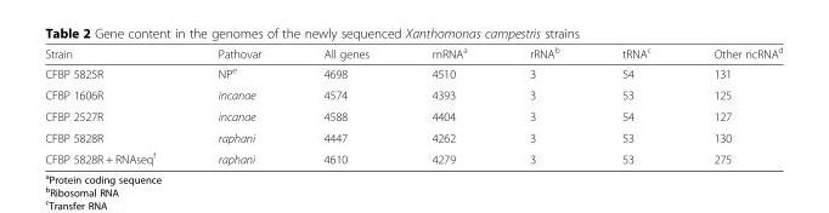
<table><thead><tr><td>Strain</td><td>Pathovar</td><td>All genes</td><td>mRNA<sup>a</sup></td><td>rRNA<sup>b</sup></td><td>tRNA<sup>c</sup></td><td>Other ncRNA<sup>d</sup></td></tr></thead><tbody><tr><td>CFBP 5825R</td><td>NP<sup>e</sup></td><td>4698</td><td>4510</td><td>3</td><td>54</td><td>131</td></tr><tr><td>CFBP 1606R</td><td>incanae</td><td>4574</td><td>4393</td><td>3</td><td>53</td><td>125</td></tr><tr><td>CFBP 2527R</td><td>incanae</td><td>4588</td><td>4404</td><td>3</td><td>54</td><td>127</td></tr><tr><td>CFBP 5828R</td><td>raphani</td><td>4447</td><td>4262</td><td>3</td><td>53</td><td>130</td></tr><tr><td>CFBP 5828R + RNAseq<sup>f</sup></td><td>raphani</td><td>4610</td><td>4279</td><td>3</td><td>53</td><td>275</td></tr></tbody></table>